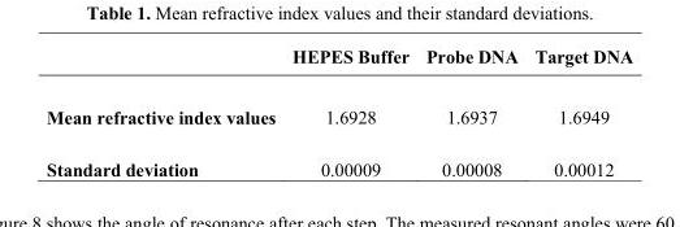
<table><thead><tr><td></td><td>HEPES Buffer</td><td>Probe DNA</td><td>Target DNA</td></tr></thead><tbody><tr><td>Mean refractive index values</td><td>1.6928</td><td>1.6937</td><td>1.6949</td></tr><tr><td>Standard deviation</td><td>0.00009</td><td>0.00008</td><td>0.00012</td></tr></tbody></table>